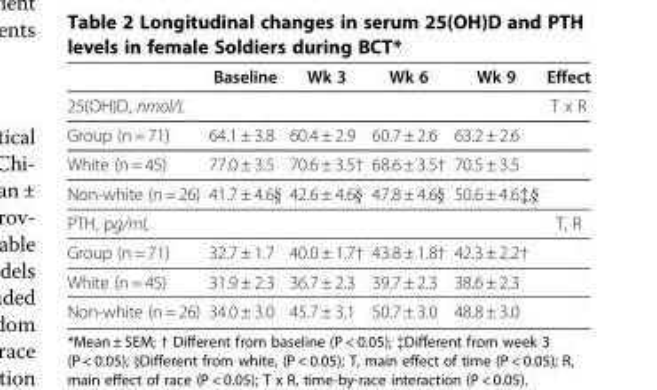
<table><thead><tr><td></td><td>Baseline</td><td>Wk 3</td><td>Wk 6</td><td>Wk 9</td><td>Effect</td></tr></thead><tbody><tr><td>25(OH)D, nmol/L</td><td></td><td></td><td></td><td></td><td>T x R</td></tr><tr><td>Group (n = 71)</td><td>64.1 ± 3.8</td><td>60.4 ± 2.9</td><td>60.7 ± 2.6</td><td>63.2 ± 2.6</td><td></td></tr><tr><td>White (n = 45)</td><td>77.0 ± 3.5</td><td>70.6 ± 3.5†</td><td>68.6 ± 3.5†</td><td>70.5 ± 3.5</td><td></td></tr><tr><td>Non-white (n = 26)</td><td>41.7 ± 4.6§</td><td>42.6 ± 4.6§</td><td>47.8 ± 4.6§</td><td>50.6 ± 4.6‡,§</td><td></td></tr><tr><td>PTH, pg/mL</td><td></td><td></td><td></td><td></td><td>T, R</td></tr><tr><td>Group (n = 71)</td><td>32.7 ± 1.7</td><td>40.0 ± 1.7†</td><td>43.8 ± 1.8†</td><td>42.3 ± 2.2†</td><td></td></tr><tr><td>White (n = 45)</td><td>31.9 ± 2.3</td><td>36.7 ± 2.3</td><td>39.7 ± 2.3</td><td>38.6 ± 2.3</td><td></td></tr><tr><td>Non-white (n = 26)</td><td>34.0 ± 3.0</td><td>45.7 ± 3.1</td><td>50.7 ± 3.0</td><td>48.8 ± 3.0</td><td></td></tr></tbody></table>